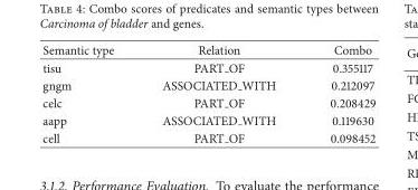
<table><thead><tr><td>Semantic type</td><td>Relation</td><td>Combo</td></tr></thead><tbody><tr><td>tisu</td><td>PART OF</td><td>0.355117</td></tr><tr><td>gngm</td><td>ASSOCIATED WITH</td><td>0.212097</td></tr><tr><td>celc</td><td>PART OF</td><td>0.208429</td></tr><tr><td>aapp</td><td>ASSOCIATED WITH</td><td>0.119630</td></tr><tr><td>cell</td><td>PART OF</td><td>0.098452</td></tr></tbody></table>